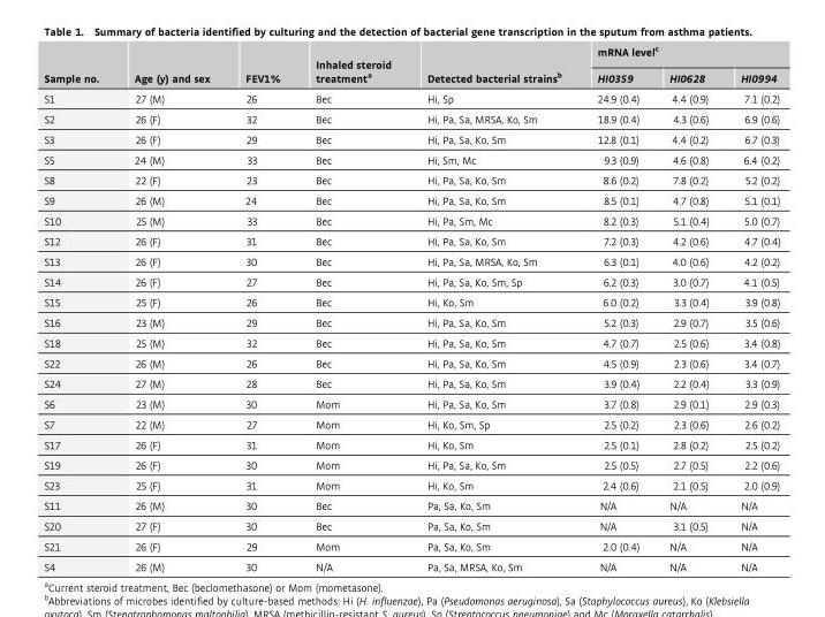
<table><thead><tr><td rowspan="2">Sample no.</td><td rowspan="2">Age (y) and sex</td><td rowspan="2">FEV1%</td><td rowspan="2">Inhaled steroid treatmenta</td><td rowspan="2">Detected bacterial strainsb</td><td colspan="3">mRNA levelc</td></tr><tr><td>HI0359</td><td>HI0628</td><td>HI0994</td></tr></thead><tbody><tr><td>S1</td><td>27 (M)</td><td>26</td><td>Bec</td><td>Hi, Sp</td><td>24.9 (0.4)</td><td>4.4 (0.9)</td><td>7.1 (0.2)</td></tr><tr><td>S2</td><td>26 (F)</td><td>32</td><td>Bec</td><td>Hi, Pa, Sa, MRSA, Ko, Sm</td><td>18.9 (0.4)</td><td>4.3 (0.6)</td><td>6.9 (0.6)</td></tr><tr><td>S3</td><td>26 (F)</td><td>29</td><td>Bec</td><td>Hi, Pa, Sa, Ko, Sm</td><td>12.8 (0.1)</td><td>4.4 (0.2)</td><td>6.7 (0.3)</td></tr><tr><td>S5</td><td>24 (M)</td><td>33</td><td>Bec</td><td>Hi, Sm, Mc</td><td>9.3 (0.9)</td><td>4.6 (0.8)</td><td>6.4 (0.2)</td></tr><tr><td>S8</td><td>22 (F)</td><td>23</td><td>Bec</td><td>Hi, Pa, Sa, Ko, Sm</td><td>8.6 (0.2)</td><td>7.8 (0.2)</td><td>5.2 (0.2)</td></tr><tr><td>S9</td><td>26 (M)</td><td>24</td><td>Bec</td><td>Hi, Pa, Sa, Ko, Sm</td><td>8.5 (0.1)</td><td>4.7 (0.8)</td><td>5.1 (0.1)</td></tr><tr><td>S10</td><td>25 (M)</td><td>33</td><td>Bec</td><td>Hi, Pa, Sm, Mc</td><td>8.2 (0.3)</td><td>5.1 (0.4)</td><td>5.0 (0.7)</td></tr><tr><td>S12</td><td>26 (F)</td><td>31</td><td>Bec</td><td>Hi, Pa, Sa, Ko, Sm</td><td>7.2 (0.3)</td><td>4.2 (0.6)</td><td>4.7 (0.4)</td></tr><tr><td>S13</td><td>26 (F)</td><td>30</td><td>Bec</td><td>Hi, Pa, Sa, MRSA, Ko, Sm</td><td>6.3 (0.1)</td><td>4.0 (0.6)</td><td>4.2 (0.2)</td></tr><tr><td>S14</td><td>26 (F)</td><td>27</td><td>Bec</td><td>Hi, Pa, Sa, Ko, Sm, Sp</td><td>6.2 (0.3)</td><td>3.0 (0.7)</td><td>4.1 (0.5)</td></tr><tr><td>S15</td><td>25 (F)</td><td>26</td><td>Bec</td><td>Hi, Ko, Sm</td><td>6.0 (0.2)</td><td>3.3 (0.4)</td><td>3.9 (0.8)</td></tr><tr><td>S16</td><td>23 (M)</td><td>29</td><td>Bec</td><td>Hi, Pa, Sa, Ko, Sm</td><td>5.2 (0.3)</td><td>2.9 (0.7)</td><td>3.5 (0.6)</td></tr><tr><td>S18</td><td>25 (M)</td><td>32</td><td>Bec</td><td>Hi, Pa, Sa, Ko, Sm</td><td>4.7 (0.7)</td><td>2.5 (0.6)</td><td>3.4 (0.8)</td></tr><tr><td>S22</td><td>26 (M)</td><td>26</td><td>Bec</td><td>Hi, Pa, Sa, Ko, Sm</td><td>4.5 (0.9)</td><td>2.3 (0.6)</td><td>3.4 (0.7)</td></tr><tr><td>S24</td><td>27 (M)</td><td>28</td><td>Bec</td><td>Hi, Pa, Sa, Ko, Sm</td><td>3.9 (0.4)</td><td>2.2 (0.4)</td><td>3.3 (0.9)</td></tr><tr><td>S6</td><td>23 (M)</td><td>30</td><td>Mom</td><td>Hi, Pa, Sa, Ko, Sm</td><td>3.7 (0.8)</td><td>2.9 (0.1)</td><td>2.9 (0.3)</td></tr><tr><td>S7</td><td>22 (M)</td><td>27</td><td>Mom</td><td>Hi, Ko, Sm, Sp</td><td>2.5 (0.2)</td><td>2.3 (0.6)</td><td>2.6 (0.2)</td></tr><tr><td>S17</td><td>26 (F)</td><td>31</td><td>Mom</td><td>Hi, Ko, Sm</td><td>2.5 (0.1)</td><td>2.8 (0.2)</td><td>2.5 (0.2)</td></tr><tr><td>S19</td><td>26 (F)</td><td>30</td><td>Mom</td><td>Hi, Pa, Sa, Ko, Sm</td><td>2.5 (0.5)</td><td>2.7 (0.5)</td><td>2.2 (0.6)</td></tr><tr><td>S23</td><td>25 (F)</td><td>31</td><td>Mom</td><td>Hi, Ko, Sm</td><td>2.4 (0.6)</td><td>2.1 (0.5)</td><td>2.0 (0.9)</td></tr><tr><td>S11</td><td>26 (M)</td><td>30</td><td>Bec</td><td>Pa, Sa, Ko, Sm</td><td>N/A</td><td>N/A</td><td>N/A</td></tr><tr><td>S20</td><td>27 (F)</td><td>30</td><td>Bec</td><td>Pa, Sa, Ko, Sm</td><td>N/A</td><td>3.1 (0.5)</td><td>N/A</td></tr><tr><td>S21</td><td>26 (F)</td><td>29</td><td>Mom</td><td>Pa, Sa, Ko, Sm</td><td>2.0 (0.4)</td><td>N/A</td><td>N/A</td></tr><tr><td>S4</td><td>26 (M)</td><td>30</td><td>N/A</td><td>Pa, Sa, MRSA, Ko, Sm</td><td>N/A</td><td>N/A</td><td>N/A</td></tr></tbody></table>